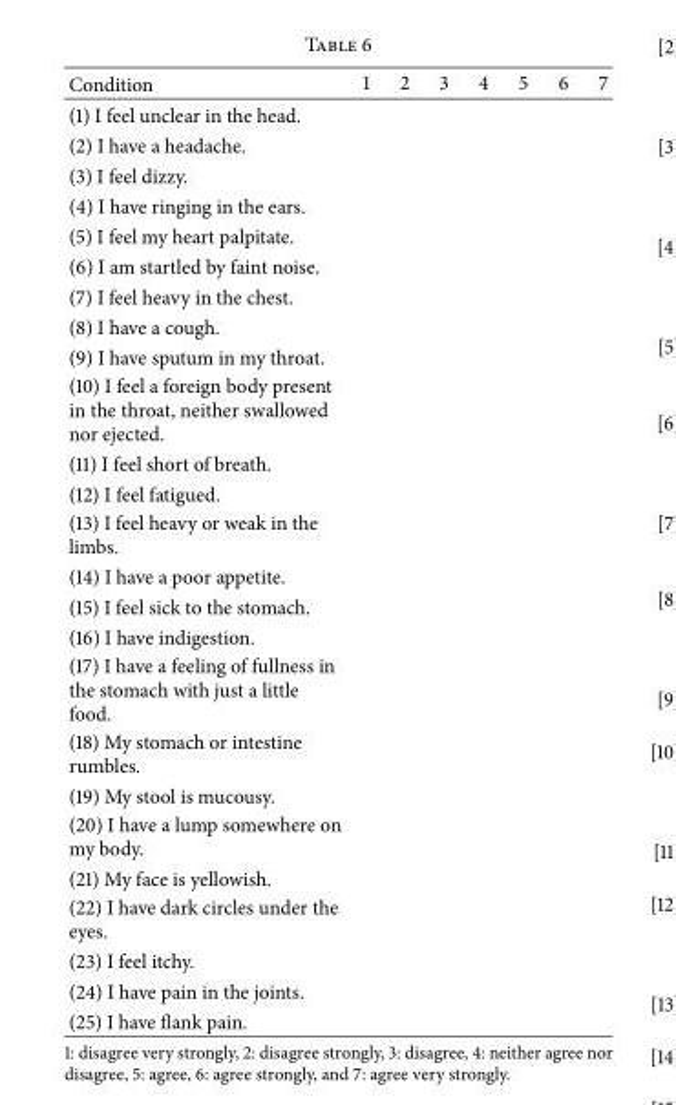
<table><thead><tr><td>Condition</td><td>1</td><td>2</td><td>3</td><td>4</td><td>5</td><td>6</td><td>7</td></tr></thead><tbody><tr><td colspan="8">(1) I feel unclear in the head.</td></tr><tr><td colspan="8">(2) I have a headache.</td></tr><tr><td colspan="8">(3) I feel dizzy.</td></tr><tr><td colspan="8">(4) I have ringing in the ears.</td></tr><tr><td colspan="8">(5) I feel my heart palpitate.</td></tr><tr><td colspan="8">(6) I am startled by faint noise.</td></tr><tr><td colspan="8">(7) I feel heavy in the chest.</td></tr><tr><td colspan="8">(8) I have a cough.</td></tr><tr><td colspan="8">(9) I have sputum in my throat.</td></tr><tr><td colspan="8">(10) I feel a foreign body present in the throat, neither swallowed nor ejected.</td></tr><tr><td colspan="8">(11) I feel short of breath.</td></tr><tr><td colspan="8">(12) I feel fatigued.</td></tr><tr><td colspan="8">(13) I feel heavy or weak in the limbs.</td></tr><tr><td colspan="8">(14) I have a poor appetite.</td></tr><tr><td colspan="8">(15) I feel sick to the stomach.</td></tr><tr><td colspan="8">(16) I have indigestion.</td></tr><tr><td colspan="8">(17) I have a feeling of fullness in the stomach with just a little food.</td></tr><tr><td colspan="8">(18) My stomach or intestine rumbles.</td></tr><tr><td colspan="8">(19) My stool is mucousy.</td></tr><tr><td colspan="8">(20) I have a lump somewhere on my body.</td></tr><tr><td colspan="8">(21) My face is yellowish.</td></tr><tr><td colspan="8">(22) I have dark circles under the eyes.</td></tr><tr><td colspan="8">(23) I feel itchy.</td></tr><tr><td colspan="8">(24) I have pain in the joints.</td></tr><tr><td>(25) I have flank pain.</td><td></td><td></td><td></td><td></td><td></td><td></td><td></td></tr></tbody></table>